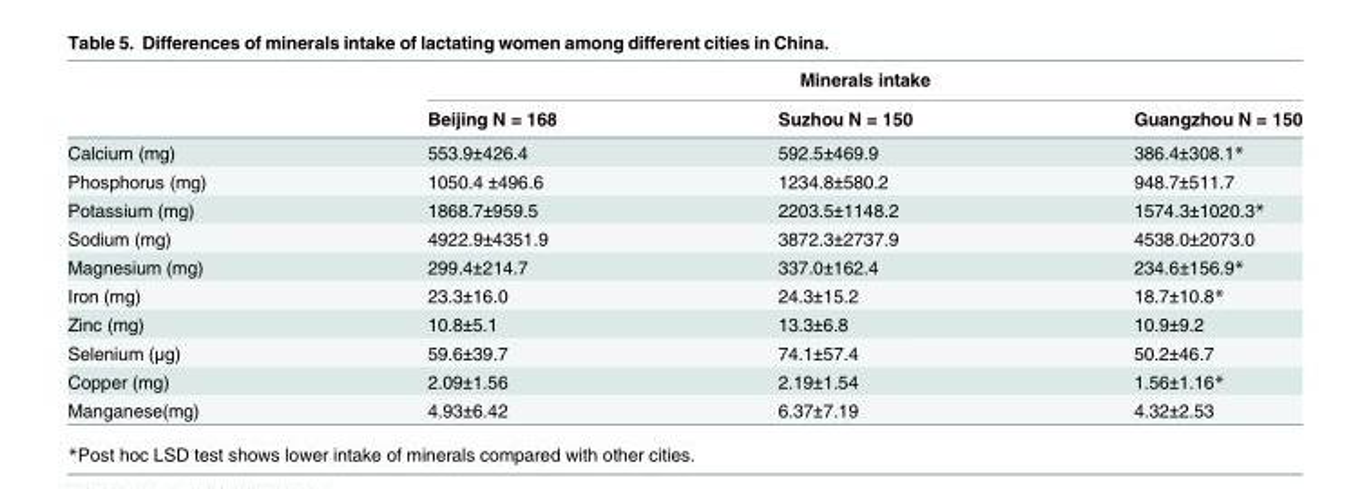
<table><thead><tr><td rowspan="2"></td><td colspan="3">Minerals intake</td></tr><tr><td>Beijing N = 168</td><td>Suzhou N = 150</td><td>Guangzhou N = 150</td></tr></thead><tbody><tr><td>Calcium (mg)</td><td>553.9±426.4</td><td>592.5±469.9</td><td>386.4±308.1*</td></tr><tr><td>Phosphorus (mg)</td><td>1050.4 ±496.6</td><td>1234.8±580.2</td><td>948.7±511.7</td></tr><tr><td>Potassium (mg)</td><td>1868.7±959.5</td><td>2203.5±1148.2</td><td>1574.3±1020.3*</td></tr><tr><td>Sodium (mg)</td><td>4922.9±4351.9</td><td>3872.3±2737.9</td><td>4538.0±2073.0</td></tr><tr><td>Magnesium (mg)</td><td>299.4±214.7</td><td>337.0±162.4</td><td>234.6±156.9*</td></tr><tr><td>Iron (mg)</td><td>23.3±16.0</td><td>24.3±15.2</td><td>18.7±10.8*</td></tr><tr><td>Zinc (mg)</td><td>10.8±5.1</td><td>13.3±6.8</td><td>10.9±9.2</td></tr><tr><td>Selenium (μg)</td><td>59.6±39.7</td><td>74.1±57.4</td><td>50.2±46.7</td></tr><tr><td>Copper (mg)</td><td>2.09±1.56</td><td>2.19±1.54</td><td>1.56±1.16*</td></tr><tr><td>Manganese(mg)</td><td>4.93±6.42</td><td>6.37±7.19</td><td>4.32±2.53</td></tr></tbody></table>